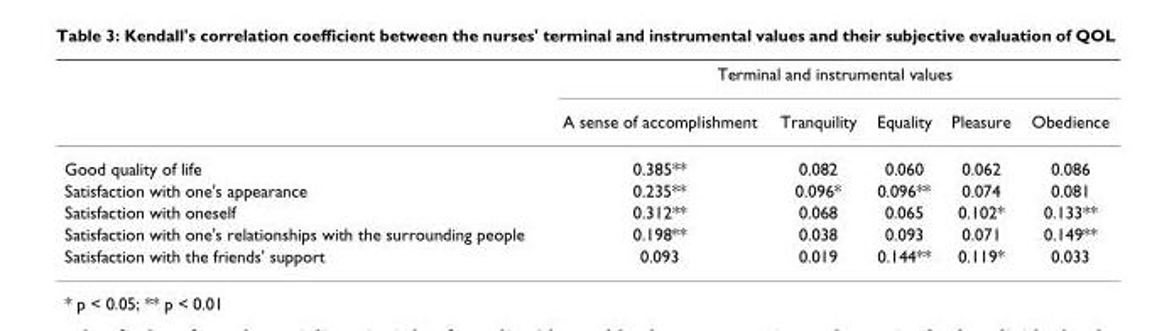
<table><thead><tr><td rowspan="2"></td><td colspan="5">Terminal and instrumental values</td></tr><tr><td>A sense of accomplishment</td><td>Tranquility</td><td>Equality</td><td>Pleasure</td><td>Obedience</td></tr></thead><tbody><tr><td>Good quality of life</td><td>0.385**</td><td>0.082</td><td>0.060</td><td>0.062</td><td>0.086</td></tr><tr><td>Satisfaction with one&#x27;s appearance</td><td>0.235**</td><td>0.096*</td><td>0.096**</td><td>0.074</td><td>0.081</td></tr><tr><td>Satisfaction with oneself</td><td>0.312**</td><td>0.068</td><td>0.065</td><td>0.102*</td><td>0.133**</td></tr><tr><td>Satisfaction with one&#x27;s relationships with the surrounding people</td><td>0.198**</td><td>0.038</td><td>0.093</td><td>0.071</td><td>0.149**</td></tr><tr><td>Satisfaction with the friends&#x27; support</td><td>0.093</td><td>0.019</td><td>0.144**</td><td>0.119*</td><td>0.033</td></tr></tbody></table>